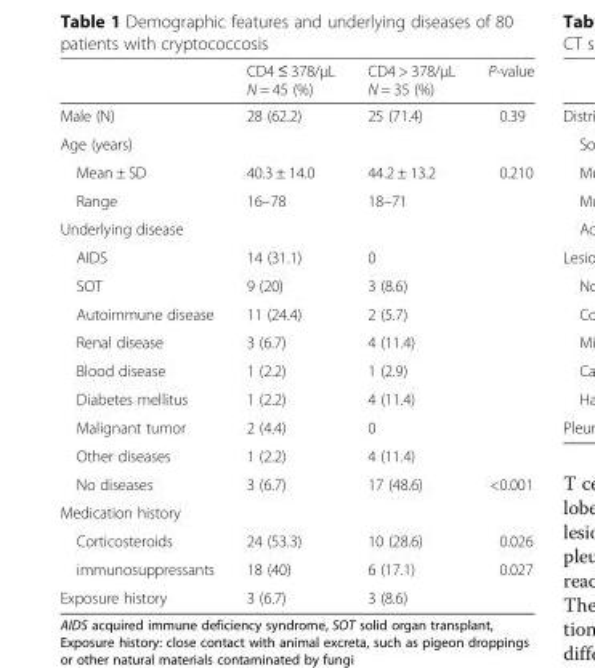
<table><thead><tr><td></td><td>CD4 ≤ 378/μL N = 45 (%)</td><td>CD4 &gt; 378/μL N = 35 (%)</td><td>P-value</td></tr></thead><tbody><tr><td>Male (N)</td><td>28 (62.2)</td><td>25 (71.4)</td><td>0.39</td></tr><tr><td colspan="4">Age (years)</td></tr><tr><td>Mean ± SD</td><td>40.3 ± 14.0</td><td>44.2 ± 13.2</td><td>0.210</td></tr><tr><td>Range</td><td>16–78</td><td>18–71</td><td></td></tr><tr><td colspan="4">Underlying disease</td></tr><tr><td>AIDS</td><td>14 (31.1)</td><td>0</td><td></td></tr><tr><td>SOT</td><td>9 (20)</td><td>3 (8.6)</td><td></td></tr><tr><td>Autoimmune disease</td><td>11 (24.4)</td><td>2 (5.7)</td><td></td></tr><tr><td>Renal disease</td><td>3 (6.7)</td><td>4 (11.4)</td><td></td></tr><tr><td>Blood disease</td><td>1 (2.2)</td><td>1 (2.9)</td><td></td></tr><tr><td>Diabetes mellitus</td><td>1 (2.2)</td><td>4 (11.4)</td><td></td></tr><tr><td>Malignant tumor</td><td>2 (4.4)</td><td>0</td><td></td></tr><tr><td>Other diseases</td><td>1 (2.2)</td><td>4 (11.4)</td><td></td></tr><tr><td>No diseases</td><td>3 (6.7)</td><td>17 (48.6)</td><td>&lt;0.001</td></tr><tr><td colspan="4">Medication history</td></tr><tr><td>Corticosteroids</td><td>24 (53.3)</td><td>10 (28.6)</td><td>0.026</td></tr><tr><td>immunosuppressants</td><td>18 (40)</td><td>6 (17.1)</td><td>0.027</td></tr><tr><td>Exposure history</td><td>3 (6.7)</td><td>3 (8.6)</td><td></td></tr></tbody></table>